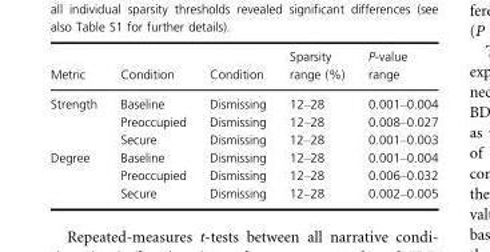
<table><thead><tr><td>Metric</td><td>Condition</td><td>Condition</td><td>Sparsity range (%)</td><td>P-value range</td></tr></thead><tbody><tr><td rowspan="3">Strength</td><td>Baseline</td><td>Dismissing</td><td>12–28</td><td>0.001–0.004</td></tr><tr><td>Preoccupied</td><td>Dismissing</td><td>12–28</td><td>0.008–0.027</td></tr><tr><td>Secure</td><td>Dismissing</td><td>12–28</td><td>0.001–0.003</td></tr><tr><td rowspan="3">Degree</td><td>Baseline</td><td>Dismissing</td><td>12–28</td><td>0.001–0.004</td></tr><tr><td>Preoccupied</td><td>Dismissing</td><td>12–28</td><td>0.006–0.032</td></tr><tr><td>Secure</td><td>Dismissing</td><td>12–28</td><td>0.002–0.005</td></tr></tbody></table>